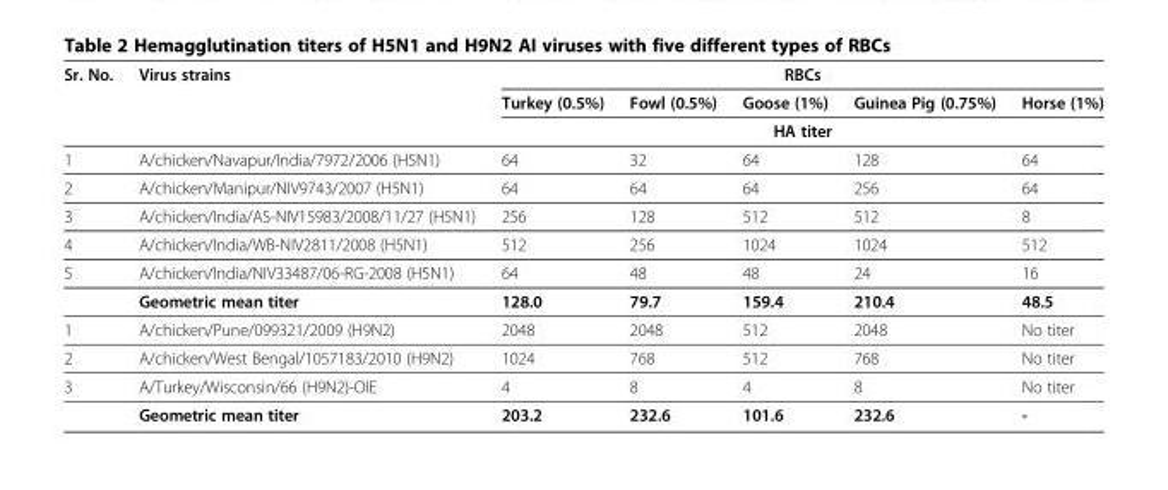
<table><thead><tr><td rowspan="3">Sr. No.</td><td rowspan="3">Virus strains</td><td colspan="5">RBCs</td></tr><tr><td>Turkey (0.5%)</td><td>Fowl (0.5%)</td><td>Goose (1%)</td><td>Guinea Pig (0.75%)</td><td>Horse (1%)</td></tr><tr><td colspan="5">HA titer</td></tr></thead><tbody><tr><td>1</td><td>A/chicken/Navapur/India/7972/2006 (H5N1)</td><td>64</td><td>32</td><td>64</td><td>128</td><td>64</td></tr><tr><td>2</td><td>A/chicken/Manipur/NIV9743/2007 (H5N1)</td><td>64</td><td>64</td><td>64</td><td>256</td><td>64</td></tr><tr><td>3</td><td>A/chicken/India/AS-NIV15983/2008/11/27 (H5N1)</td><td>256</td><td>128</td><td>512</td><td>512</td><td>8</td></tr><tr><td>4</td><td>A/chicken/India/WB-NIV2811/2008 (H5N1)</td><td>512</td><td>256</td><td>1024</td><td>1024</td><td>512</td></tr><tr><td rowspan="2">5</td><td>A/chicken/India/NIV33487/06-RG-2008 (H5N1)</td><td>64</td><td>48</td><td>48</td><td>24</td><td>16</td></tr><tr><td>Geometric mean titer</td><td>128.0</td><td>79.7</td><td>159.4</td><td>210.4</td><td>48.5</td></tr><tr><td>1</td><td>A/chicken/Pune/099321/2009 (H9N2)</td><td>2048</td><td>2048</td><td>512</td><td>2048</td><td>No titer</td></tr><tr><td>2</td><td>A/chicken/West Bengal/1057183/2010 (H9N2)</td><td>1024</td><td>768</td><td>512</td><td>768</td><td>No titer</td></tr><tr><td rowspan="2">3</td><td>A/Turkey/Wisconsin/66 (H9N2)-OIE</td><td>4</td><td>8</td><td>4</td><td>8</td><td>No titer</td></tr><tr><td>Geometric mean titer</td><td>203.2</td><td>232.6</td><td>101.6</td><td>232.6</td><td>-</td></tr></tbody></table>